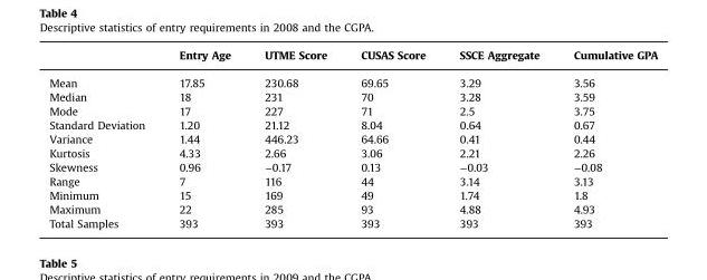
<table><thead><tr><td></td><td>Entry Age</td><td>UTME Score</td><td>CUSAS Score</td><td>SSCE Aggregate</td><td>Cumulative GPA</td></tr></thead><tbody><tr><td>Mean</td><td>17.85</td><td>230.68</td><td>69.65</td><td>3.29</td><td>3.56</td></tr><tr><td>Median</td><td>18</td><td>231</td><td>70</td><td>3.28</td><td>3.59</td></tr><tr><td>Mode</td><td>17</td><td>227</td><td>71</td><td>2.5</td><td>3.75</td></tr><tr><td>Standard Deviation</td><td>1.20</td><td>21.12</td><td>8.04</td><td>0.64</td><td>0.67</td></tr><tr><td>Variance</td><td>1.44</td><td>446.23</td><td>64.66</td><td>0.41</td><td>0.44</td></tr><tr><td>Kurtosis</td><td>4.33</td><td>2.66</td><td>3.06</td><td>2.21</td><td>2.26</td></tr><tr><td>Skewness</td><td>0.96</td><td>−0.17</td><td>0.13</td><td>−0.03</td><td>−0.08</td></tr><tr><td>Range</td><td>7</td><td>116</td><td>44</td><td>3.14</td><td>3.13</td></tr><tr><td>Minimum</td><td>15</td><td>169</td><td>49</td><td>1.74</td><td>1.8</td></tr><tr><td>Maximum</td><td>22</td><td>285</td><td>93</td><td>4.88</td><td>4.93</td></tr><tr><td>Total Samples</td><td>393</td><td>393</td><td>393</td><td>393</td><td>393</td></tr></tbody></table>